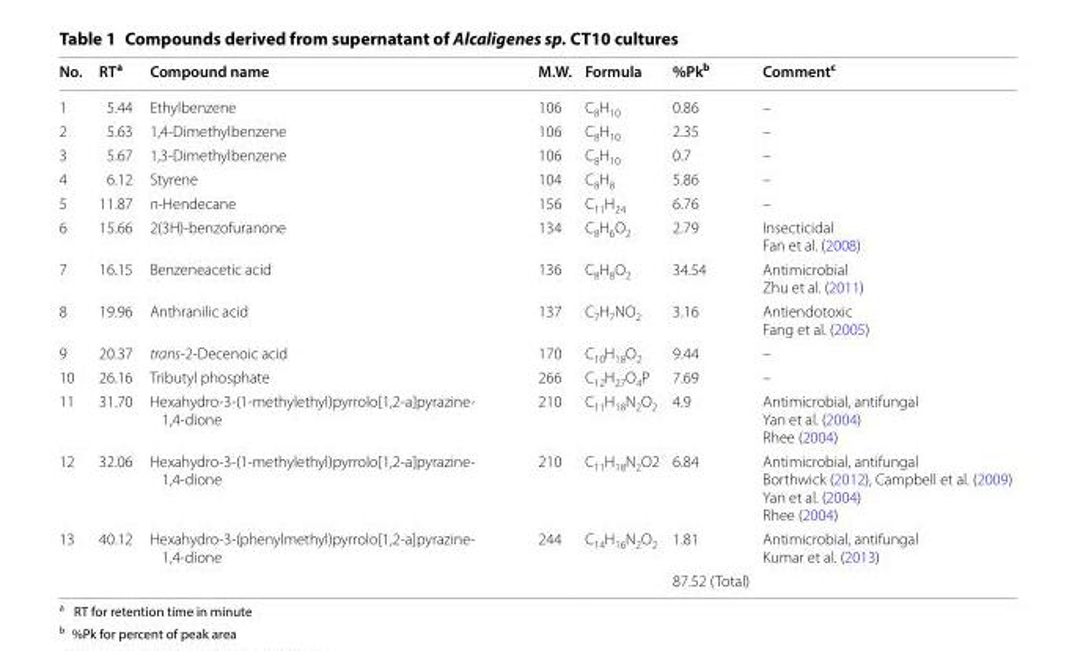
<table><thead><tr><td>No.</td><td>RT<sup>a</sup></td><td>Compound name</td><td>M.W.</td><td>Formula</td><td>%Pk<sup>b</sup></td><td>Comment<sup>c</sup></td></tr></thead><tbody><tr><td>1</td><td>5.44</td><td>Ethylbenzene</td><td>106</td><td>C<sub>8</sub>H<sub>10</sub></td><td>0.86</td><td>–</td></tr><tr><td>2</td><td>5.63</td><td>1,4-Dimethylbenzene</td><td>106</td><td>C<sub>8</sub>H<sub>10</sub></td><td>2.35</td><td>–</td></tr><tr><td>3</td><td>5.67</td><td>1,3-Dimethylbenzene</td><td>106</td><td>C<sub>8</sub>H<sub>10</sub></td><td>0.7</td><td>–</td></tr><tr><td>4</td><td>6.12</td><td>Styrene</td><td>104</td><td>C<sub>8</sub>H<sub>8</sub></td><td>5.86</td><td>–</td></tr><tr><td>5</td><td>11.87</td><td>n-Hendecane</td><td>156</td><td>C<sub>11</sub>H<sub>24</sub></td><td>6.76</td><td>–</td></tr><tr><td>6</td><td>15.66</td><td>2(3H)-benzofuranone</td><td>134</td><td>C<sub>8</sub>H<sub>6</sub>O<sub>2</sub></td><td>2.79</td><td>Insecticidal Fan et al. (2008)</td></tr><tr><td>7</td><td>16.15</td><td>Benzeneacetic acid</td><td>136</td><td>C<sub>8</sub>H<sub>8</sub>O<sub>2</sub></td><td>34.54</td><td>Antimicrobial Zhu et al. (2011)</td></tr><tr><td>8</td><td>19.96</td><td>Anthranilic acid</td><td>137</td><td>C<sub>7</sub>H<sub>7</sub>NO<sub>2</sub></td><td>3.16</td><td>Antiendotoxic Fang et al. (2005)</td></tr><tr><td>9</td><td>20.37</td><td>trans-2-Decenoic acid</td><td>170</td><td>C<sub>10</sub>H<sub>18</sub>O<sub>2</sub></td><td>9.44</td><td>–</td></tr><tr><td>10</td><td>26.16</td><td>Tributyl phosphate</td><td>266</td><td>C<sub>12</sub>H<sub>27</sub>O<sub>4</sub>P</td><td>7.69</td><td>–</td></tr><tr><td>11</td><td>31.70</td><td>Hexahydro-3-(1-methylethyl)pyrrolo[1,2-a]pyrazine- 1,4-dione</td><td>210</td><td>C<sub>11</sub>H<sub>18</sub>N<sub>2</sub>O<sub>2</sub></td><td>4.9</td><td>Antimicrobial, antifungal Yan et al. (2004) Rhee (2004)</td></tr><tr><td>12</td><td>32.06</td><td>Hexahydro-3-(1-methylethyl)pyrrolo[1,2-a]pyrazine- 1,4-dione</td><td>210</td><td>C<sub>11</sub>H<sub>18</sub>N<sub>2</sub>O2</td><td>6.84</td><td>Antimicrobial, antifungal Borthwick (2012), Campbell et al. (2009) Yan et al. (2004) Rhee (2004)</td></tr><tr><td rowspan="2">13</td><td>40.12</td><td>Hexahydro-3-(phenylmethyl)pyrrolo[1,2-a]pyrazine- 1,4-dione</td><td>244</td><td>C<sub>14</sub>H<sub>16</sub>N<sub>2</sub>O<sub>2</sub></td><td>1.81</td><td>Antimicrobial, antifungal Kumar et al. (2013)</td></tr><tr><td></td><td></td><td></td><td></td><td>87.52 (Total)</td><td></td></tr></tbody></table>